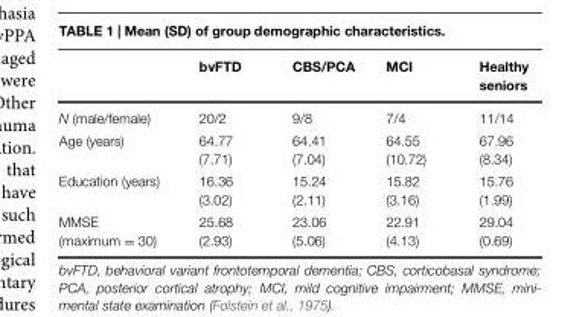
<table><thead><tr><td></td><td>bvFTD</td><td>CBS/PCA</td><td>MCI</td><td>Healthy seniors</td></tr></thead><tbody><tr><td>N (male/female)</td><td>20/2</td><td>9/8</td><td>7/4</td><td>11/14</td></tr><tr><td>Age (years)</td><td>64.77 (7.71)</td><td>64.41 (7.04)</td><td>64.55 (10.72)</td><td>67.96 (8.34)</td></tr><tr><td>Education (years)</td><td>16.36 (3.02)</td><td>15.24 (2.11)</td><td>15.82 (3.16)</td><td>15.76 (1.99)</td></tr><tr><td>MMSE (maximum = 30)</td><td>25.68 (2.93)</td><td>23.06 (5.06)</td><td>22.91 (4.13)</td><td>29.04 (0.69)</td></tr></tbody></table>